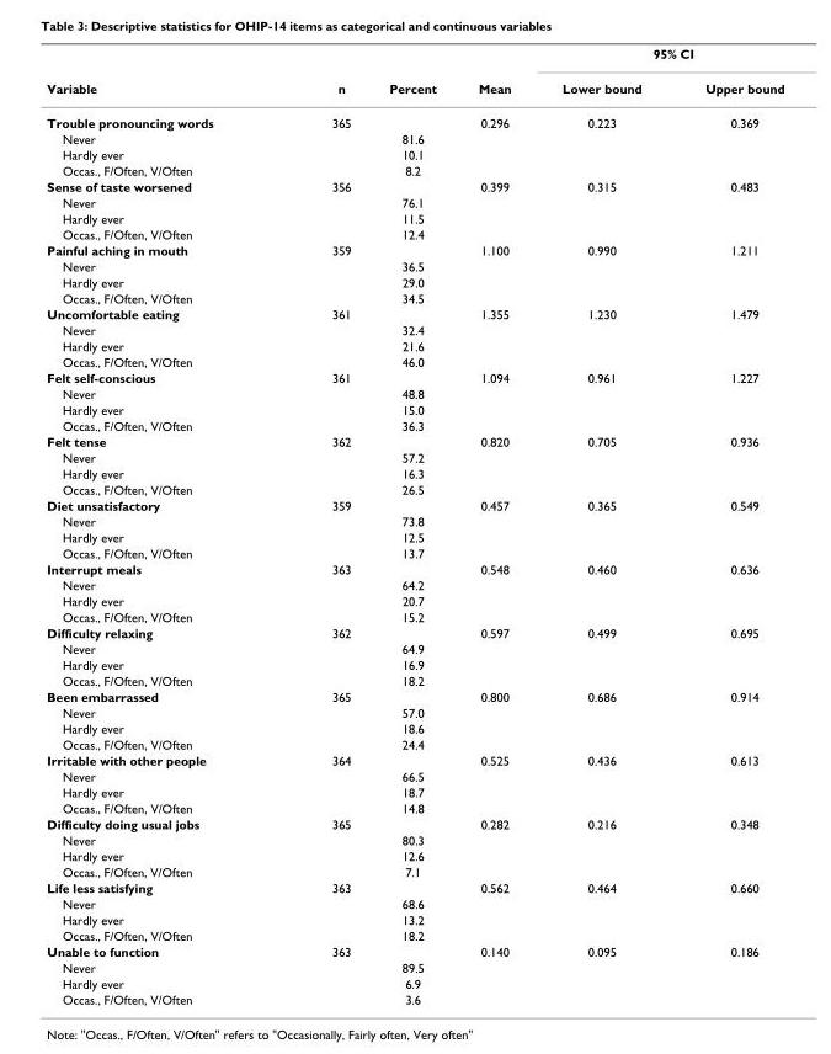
<table><thead><tr><td rowspan="2">Variable</td><td rowspan="2">n</td><td rowspan="2">Percent</td><td rowspan="2">Mean</td><td colspan="2">95% CI</td></tr><tr><td>Lower bound</td><td>Upper bound</td></tr></thead><tbody><tr><td>Trouble pronouncing words</td><td>365</td><td></td><td>0.296</td><td>0.223</td><td>0.369</td></tr><tr><td>Never</td><td></td><td>81.6</td><td></td><td></td><td></td></tr><tr><td>Hardly ever</td><td></td><td>10.1</td><td></td><td></td><td></td></tr><tr><td>Occas., F/Often, V/Often</td><td></td><td>8.2</td><td></td><td></td><td></td></tr><tr><td>Sense of taste worsened</td><td>356</td><td></td><td>0.399</td><td>0.315</td><td>0.483</td></tr><tr><td>Never</td><td></td><td>76.1</td><td></td><td></td><td></td></tr><tr><td>Hardly ever</td><td></td><td>11.5</td><td></td><td></td><td></td></tr><tr><td>Occas., F/Often, V/Often</td><td></td><td>12.4</td><td></td><td></td><td></td></tr><tr><td>Painful aching in mouth</td><td>359</td><td></td><td>1.100</td><td>0.990</td><td>1.211</td></tr><tr><td>Never</td><td></td><td>36.5</td><td></td><td></td><td></td></tr><tr><td>Hardly ever</td><td></td><td>29.0</td><td></td><td></td><td></td></tr><tr><td>Occas., F/Often, V/Often</td><td></td><td>34.5</td><td></td><td></td><td></td></tr><tr><td>Uncomfortable eating</td><td>361</td><td></td><td>1.355</td><td>1.230</td><td>1.479</td></tr><tr><td>Never</td><td></td><td>32.4</td><td></td><td></td><td></td></tr><tr><td>Hardly ever</td><td></td><td>21.6</td><td></td><td></td><td></td></tr><tr><td>Occas., F/Often, V/Often</td><td></td><td>46.0</td><td></td><td></td><td></td></tr><tr><td>Felt self-conscious</td><td>361</td><td></td><td>1.094</td><td>0.961</td><td>1.227</td></tr><tr><td>Never</td><td></td><td>48.8</td><td></td><td></td><td></td></tr><tr><td>Hardly ever</td><td></td><td>15.0</td><td></td><td></td><td></td></tr><tr><td>Occas., F/Often, V/Often</td><td></td><td>36.3</td><td></td><td></td><td></td></tr><tr><td>Felt tense</td><td>362</td><td></td><td>0.820</td><td>0.705</td><td>0.936</td></tr><tr><td>Never</td><td></td><td>57.2</td><td></td><td></td><td></td></tr><tr><td>Hardly ever</td><td></td><td>16.3</td><td></td><td></td><td></td></tr><tr><td>Occas., F/Often, V/Often</td><td></td><td>26.5</td><td></td><td></td><td></td></tr><tr><td>Diet unsatisfactory</td><td>359</td><td></td><td>0.457</td><td>0.365</td><td>0.549</td></tr><tr><td>Never</td><td></td><td>73.8</td><td></td><td></td><td></td></tr><tr><td>Hardly ever</td><td></td><td>12.5</td><td></td><td></td><td></td></tr><tr><td>Occas., F/Often, V/Often</td><td></td><td>13.7</td><td></td><td></td><td></td></tr><tr><td>Interrupt meals</td><td>363</td><td></td><td>0.548</td><td>0.460</td><td>0.636</td></tr><tr><td>Never</td><td></td><td>64.2</td><td></td><td></td><td></td></tr><tr><td>Hardly ever</td><td></td><td>20.7</td><td></td><td></td><td></td></tr><tr><td>Occas., F/Often, V/Often</td><td></td><td>15.2</td><td></td><td></td><td></td></tr><tr><td>Difficulty relaxing</td><td>362</td><td></td><td>0.597</td><td>0.499</td><td>0.695</td></tr><tr><td>Never</td><td></td><td>64.9</td><td></td><td></td><td></td></tr><tr><td>Hardly ever</td><td></td><td>16.9</td><td></td><td></td><td></td></tr><tr><td>Occas., F/Often, V/Often</td><td></td><td>18.2</td><td></td><td></td><td></td></tr><tr><td>Been embarrassed</td><td>365</td><td></td><td>0.800</td><td>0.686</td><td>0.914</td></tr><tr><td>Never</td><td></td><td>57.0</td><td></td><td></td><td></td></tr><tr><td>Hardly ever</td><td></td><td>18.6</td><td></td><td></td><td></td></tr><tr><td>Occas., F/Often, V/Often</td><td></td><td>24.4</td><td></td><td></td><td></td></tr><tr><td>Irritable with other people</td><td>364</td><td></td><td>0.525</td><td>0.436</td><td>0.613</td></tr><tr><td>Never</td><td></td><td>66.5</td><td></td><td></td><td></td></tr><tr><td>Hardly ever</td><td></td><td>18.7</td><td></td><td></td><td></td></tr><tr><td>Occas., F/Often, V/Often</td><td></td><td>14.8</td><td></td><td></td><td></td></tr><tr><td>Difficulty doing usual jobs</td><td>365</td><td></td><td>0.282</td><td>0.216</td><td>0.348</td></tr><tr><td>Never</td><td></td><td>80.3</td><td></td><td></td><td></td></tr><tr><td>Hardly ever</td><td></td><td>12.6</td><td></td><td></td><td></td></tr><tr><td>Occas., F/Often, V/Often</td><td></td><td>7.1</td><td></td><td></td><td></td></tr><tr><td>Life less satisfying</td><td>363</td><td></td><td>0.562</td><td>0.464</td><td>0.660</td></tr><tr><td>Never</td><td></td><td>68.6</td><td></td><td></td><td></td></tr><tr><td>Hardly ever</td><td></td><td>13.2</td><td></td><td></td><td></td></tr><tr><td>Occas., F/Often, V/Often</td><td></td><td>18.2</td><td></td><td></td><td></td></tr><tr><td>Unable to function</td><td>363</td><td></td><td>0.140</td><td>0.095</td><td>0.186</td></tr><tr><td>Never</td><td></td><td>89.5</td><td></td><td></td><td></td></tr><tr><td>Hardly ever</td><td></td><td>6.9</td><td></td><td></td><td></td></tr><tr><td>Occas., F/Often, V/Often</td><td></td><td>3.6</td><td></td><td></td><td></td></tr></tbody></table>